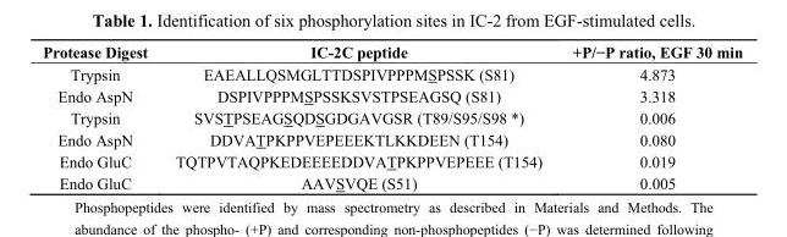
<table><thead><tr><td>Protease Digest</td><td>IC-2C peptide</td><td>+P/−P ratio, EGF 30 min</td></tr></thead><tbody><tr><td>Trypsin</td><td>EAEALLQSMGLTTDSPIVPPPMSPSSK (S81)</td><td>4.873</td></tr><tr><td>Endo AspN</td><td>DSPIVPPPMSPSSKSVSTPSEAGSQ (S81)</td><td>3.318</td></tr><tr><td>Trypsin</td><td>SVSTPSEAGSQDSGDGAVGSR (T89/S95/S98 *)</td><td>0.006</td></tr><tr><td>Endo AspN</td><td>DDVATPKPPVEPEEEKTLKKDEEN (T154)</td><td>0.080</td></tr><tr><td>Endo GluC</td><td>TQTPVTAQPKEDEEEEDDVATPKPPVEPEEE (T154)</td><td>0.019</td></tr><tr><td>Endo GluC</td><td>AAVSVQE (S51)</td><td>0.005</td></tr></tbody></table>